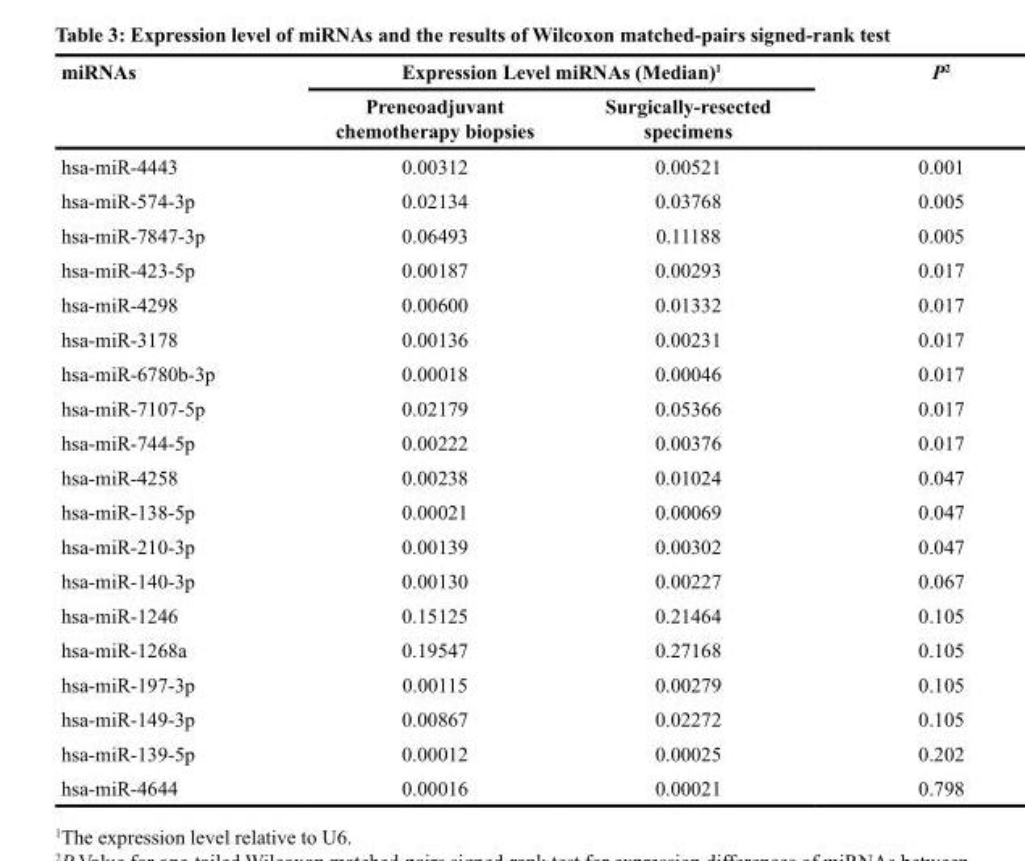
<table><thead><tr><td rowspan="2">miRNAs</td><td colspan="2">Expression Level miRNAs (Median)<sup>1</sup></td><td rowspan="2">P<sup>2</sup></td></tr><tr><td>Preneoadjuvant chemotherapy biopsies</td><td>Surgically-resected specimens</td></tr></thead><tbody><tr><td>hsa-miR-4443</td><td>0.00312</td><td>0.00521</td><td>0.001</td></tr><tr><td>hsa-miR-574-3p</td><td>0.02134</td><td>0.03768</td><td>0.005</td></tr><tr><td>hsa-miR-7847-3p</td><td>0.06493</td><td>0.11188</td><td>0.005</td></tr><tr><td>hsa-miR-423-5p</td><td>0.00187</td><td>0.00293</td><td>0.017</td></tr><tr><td>hsa-miR-4298</td><td>0.00600</td><td>0.01332</td><td>0.017</td></tr><tr><td>hsa-miR-3178</td><td>0.00136</td><td>0.00231</td><td>0.017</td></tr><tr><td>hsa-miR-6780b-3p</td><td>0.00018</td><td>0.00046</td><td>0.017</td></tr><tr><td>hsa-miR-7107-5p</td><td>0.02179</td><td>0.05366</td><td>0.017</td></tr><tr><td>hsa-miR-744-5p</td><td>0.00222</td><td>0.00376</td><td>0.017</td></tr><tr><td>hsa-miR-4258</td><td>0.00238</td><td>0.01024</td><td>0.047</td></tr><tr><td>hsa-miR-138-5p</td><td>0.00021</td><td>0.00069</td><td>0.047</td></tr><tr><td>hsa-miR-210-3p</td><td>0.00139</td><td>0.00302</td><td>0.047</td></tr><tr><td>hsa-miR-140-3p</td><td>0.00130</td><td>0.00227</td><td>0.067</td></tr><tr><td>hsa-miR-1246</td><td>0.15125</td><td>0.21464</td><td>0.105</td></tr><tr><td>hsa-miR-1268a</td><td>0.19547</td><td>0.27168</td><td>0.105</td></tr><tr><td>hsa-miR-197-3p</td><td>0.00115</td><td>0.00279</td><td>0.105</td></tr><tr><td>hsa-miR-149-3p</td><td>0.00867</td><td>0.02272</td><td>0.105</td></tr><tr><td>hsa-miR-139-5p</td><td>0.00012</td><td>0.00025</td><td>0.202</td></tr><tr><td>hsa-miR-4644</td><td>0.00016</td><td>0.00021</td><td>0.798</td></tr></tbody></table>